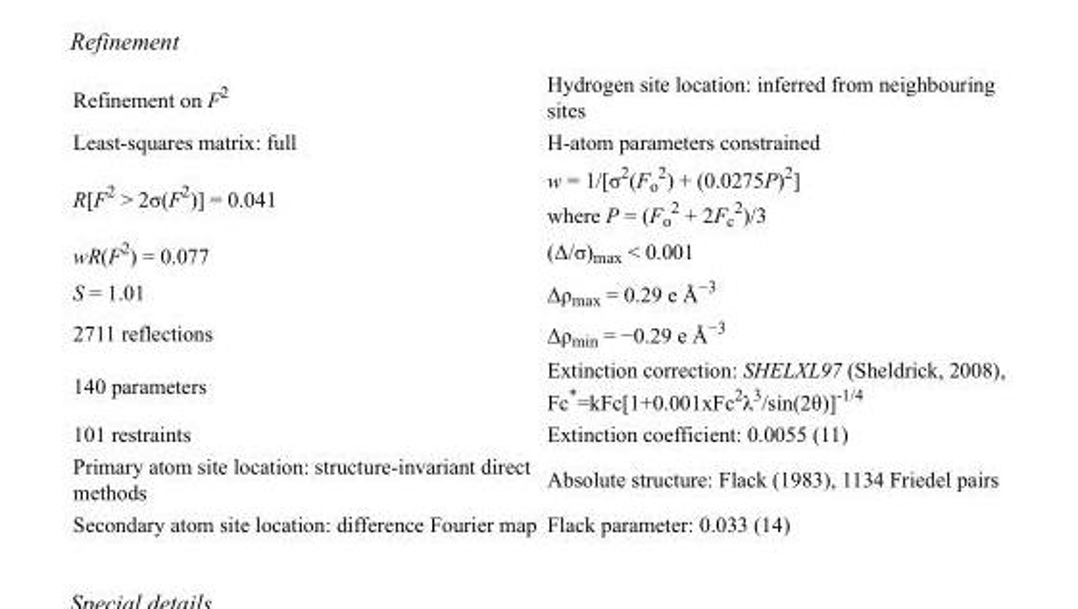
<table><tbody><tr><td>Refinement on F<sup>2</sup></td><td>Hydrogen site location: inferred from neighbouring sites</td></tr><tr><td>Least-squares matrix: full</td><td>H-atom parameters constrained</td></tr><tr><td>R[F<sup>2</sup> &gt; 2σ(F<sup>2</sup>)] = 0.041</td><td>w = 1/[σ<sup>2</sup>(F<sub>o</sub> <sup>2</sup>) + (0.0275P)<sup>2</sup>] where P = (F<sub>o</sub> <sup>2</sup> + 2F<sub>c</sub> <sup>2</sup>)/3</td></tr><tr><td>wR(F<sup>2</sup>) = 0.077</td><td>(Δ/σ)<sub>max</sub> &lt; 0.001</td></tr><tr><td>S = 1.01</td><td>Δρ<sub>max</sub> = 0.29 e Å<sup>−3</sup></td></tr><tr><td>2711 reflections</td><td>Δρ<sub>min</sub> = −0.29 e Å<sup>−3</sup></td></tr><tr><td>140 parameters</td><td>Extinction correction: SHELXL97 (Sheldrick, 2008), Fc*=kFc[1+0.001xFc<sup>2</sup>λ<sup>3</sup>/sin(2θ)]<sup>-1/4</sup></td></tr><tr><td>101 restraints</td><td>Extinction coefficient: 0.0055 (11)</td></tr><tr><td>Primary atom site location: structure-invariant direct methods</td><td>Absolute structure: Flack (1983), 1134 Friedel pairs</td></tr><tr><td>Secondary atom site location: difference Fourier map</td><td>Flack parameter: 0.033 (14)</td></tr></tbody></table>